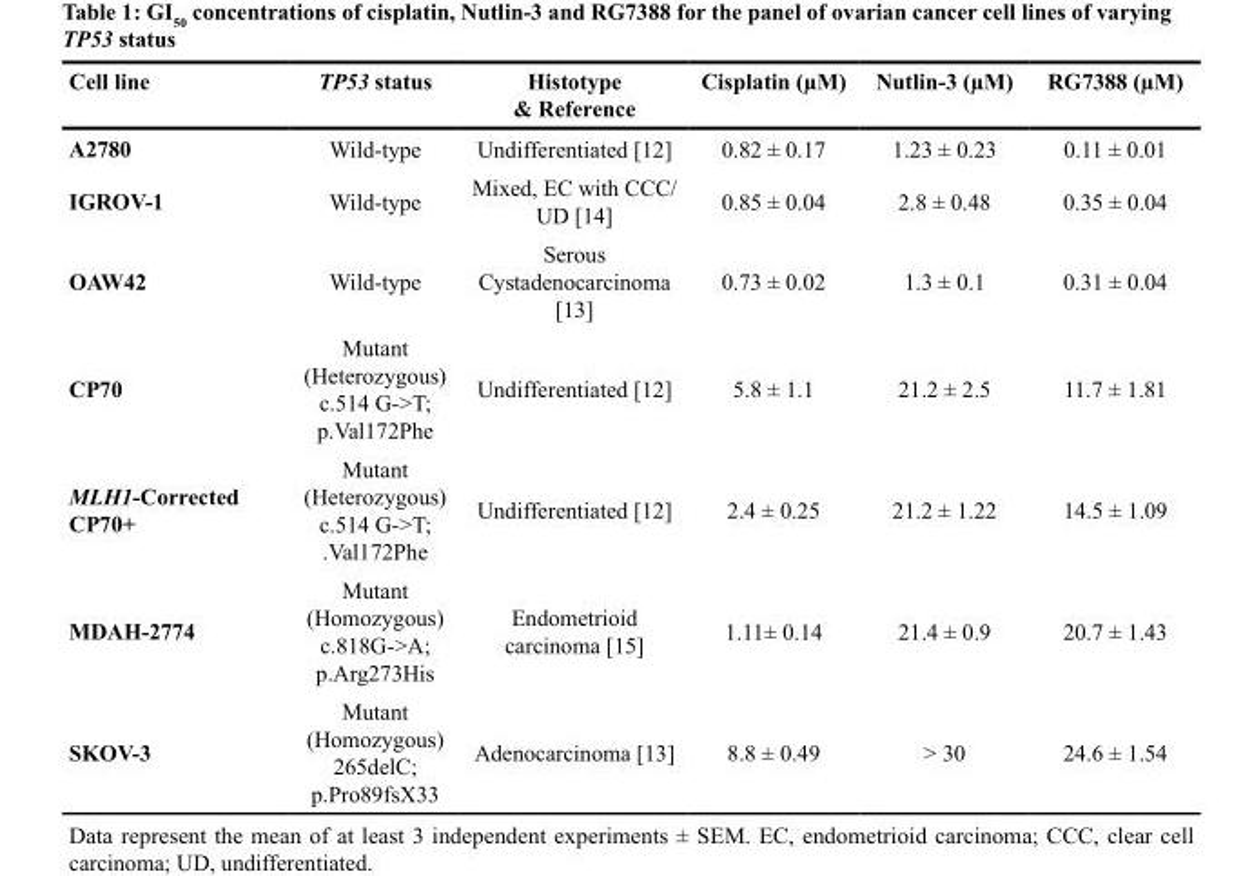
<table><thead><tr><td>Cell line</td><td>TP53 status</td><td>Histotype &amp; Reference</td><td>Cisplatin (µM)</td><td>Nutlin-3 (µM)</td><td>RG7388 (µM)</td></tr></thead><tbody><tr><td>A2780</td><td>Wild-type</td><td>Undifferentiated [12]</td><td>0.82 ± 0.17</td><td>1.23 ± 0.23</td><td>0.11 ± 0.01</td></tr><tr><td>IGROV-1</td><td>Wild-type</td><td>Mixed, EC with CCC/ UD [14]</td><td>0.85 ± 0.04</td><td>2.8 ± 0.48</td><td>0.35 ± 0.04</td></tr><tr><td>OAW42</td><td>Wild-type</td><td>Serous Cystadenocarcinoma [13]</td><td>0.73 ± 0.02</td><td>1.3 ± 0.1</td><td>0.31 ± 0.04</td></tr><tr><td>CP70</td><td>Mutant (Heterozygous) c.514 G-&gt;T; p.Val172Phe</td><td>Undifferentiated [12]</td><td>5.8 ± 1.1</td><td>21.2 ± 2.5</td><td>11.7 ± 1.81</td></tr><tr><td>MLH1-Corrected CP70+</td><td>Mutant (Heterozygous) c.514 G-&gt;T; .Val172Phe</td><td>Undifferentiated [12]</td><td>2.4 ± 0.25</td><td>21.2 ± 1.22</td><td>14.5 ± 1.09</td></tr><tr><td>MDAH-2774</td><td>Mutant (Homozygous) c.818G-&gt;A; p.Arg273His</td><td>Endometrioid carcinoma [15]</td><td>1.11± 0.14</td><td>21.4 ± 0.9</td><td>20.7 ± 1.43</td></tr><tr><td>SKOV-3</td><td>Mutant (Homozygous) 265delC; p.Pro89fsX33</td><td>Adenocarcinoma [13]</td><td>8.8 ± 0.49</td><td>˃ 30</td><td>24.6 ± 1.54</td></tr></tbody></table>